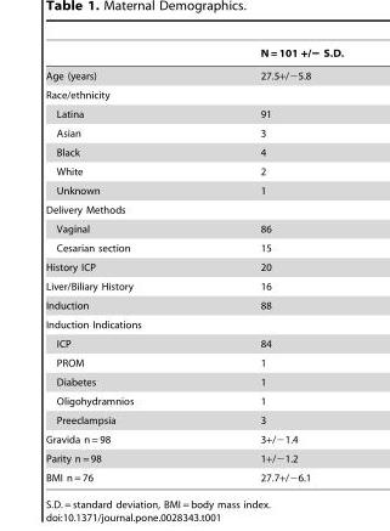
<table><thead><tr><td></td><td>N = 101 +/− S.D.</td></tr></thead><tbody><tr><td>Age (years)</td><td>27.5+/−5.8</td></tr><tr><td colspan="2">Race/ethnicity</td></tr><tr><td>Latina</td><td>91</td></tr><tr><td>Asian</td><td>3</td></tr><tr><td>Black</td><td>4</td></tr><tr><td>White</td><td>2</td></tr><tr><td>Unknown</td><td>1</td></tr><tr><td colspan="2">Delivery Methods</td></tr><tr><td>Vaginal</td><td>86</td></tr><tr><td>Cesarian section</td><td>15</td></tr><tr><td>History ICP</td><td>20</td></tr><tr><td>Liver/Biliary History</td><td>16</td></tr><tr><td>Induction</td><td>88</td></tr><tr><td colspan="2">Induction Indications</td></tr><tr><td>ICP</td><td>84</td></tr><tr><td>PROM</td><td>1</td></tr><tr><td>Diabetes</td><td>1</td></tr><tr><td>Oligohydramnios</td><td>1</td></tr><tr><td>Preeclampsia</td><td>3</td></tr><tr><td>Gravida n = 98</td><td>3+/−1.4</td></tr><tr><td>Parity n = 98</td><td>1+/−1.2</td></tr><tr><td>BMI n = 76</td><td>27.7+/−6.1</td></tr></tbody></table>